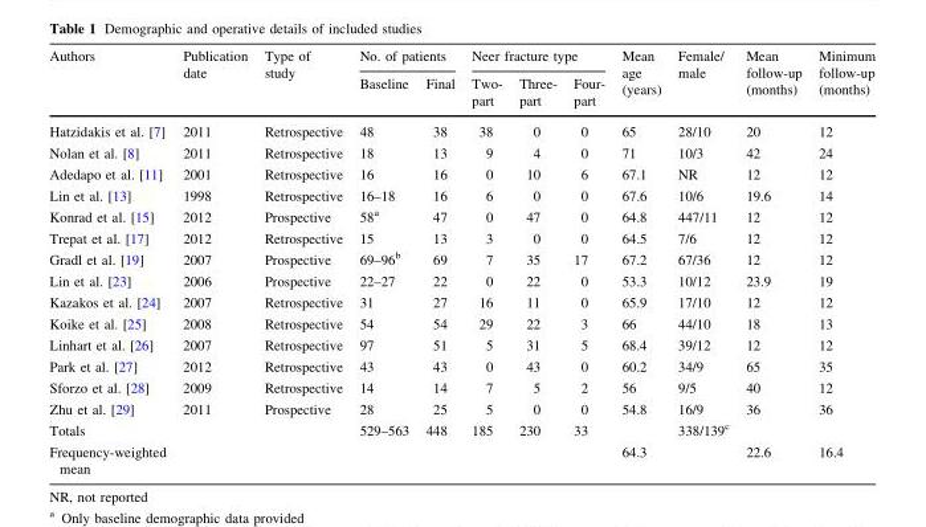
<table><thead><tr><td rowspan="2">Authors</td><td rowspan="2">Publication date</td><td rowspan="2">Type of study</td><td colspan="2">No. of patients</td><td colspan="3">Neer fracture type</td><td rowspan="2">Mean age (years)</td><td rowspan="2">Female/ male</td><td rowspan="2">Mean follow-up (months)</td><td rowspan="2">Minimum follow-up (months)</td></tr><tr><td>Baseline</td><td>Final</td><td>Two- part</td><td>Three- part</td><td>Four- part</td></tr></thead><tbody><tr><td>Hatzidakis et al. [7]</td><td>2011</td><td>Retrospective</td><td>48</td><td>38</td><td>38</td><td>0</td><td>0</td><td>65</td><td>28/10</td><td>20</td><td>12</td></tr><tr><td>Nolan et al. [8]</td><td>2011</td><td>Retrospective</td><td>18</td><td>13</td><td>9</td><td>4</td><td>0</td><td>71</td><td>10/3</td><td>42</td><td>24</td></tr><tr><td>Adedapo et al. [11]</td><td>2001</td><td>Retrospective</td><td>16</td><td>16</td><td>0</td><td>10</td><td>6</td><td>67.1</td><td>NR</td><td>12</td><td>12</td></tr><tr><td>Lin et al. [13]</td><td>1998</td><td>Retrospective</td><td>16–18</td><td>16</td><td>6</td><td>0</td><td>0</td><td>67.6</td><td>10/6</td><td>19.6</td><td>14</td></tr><tr><td>Konrad et al. [15]</td><td>2012</td><td>Prospective</td><td>58<sup>a</sup></td><td>47</td><td>0</td><td>47</td><td>0</td><td>64.8</td><td>447/11</td><td>12</td><td>12</td></tr><tr><td>Trepat et al. [17]</td><td>2012</td><td>Retrospective</td><td>15</td><td>13</td><td>3</td><td>0</td><td>0</td><td>64.5</td><td>7/6</td><td>12</td><td>12</td></tr><tr><td>Gradl et al. [19]</td><td>2007</td><td>Prospective</td><td>69–96<sup>b</sup></td><td>69</td><td>7</td><td>35</td><td>17</td><td>67.2</td><td>67/36</td><td>12</td><td>12</td></tr><tr><td>Lin et al. [23]</td><td>2006</td><td>Prospective</td><td>22–27</td><td>22</td><td>0</td><td>22</td><td>0</td><td>53.3</td><td>10/12</td><td>23.9</td><td>19</td></tr><tr><td>Kazakos et al. [24]</td><td>2007</td><td>Retrospective</td><td>31</td><td>27</td><td>16</td><td>11</td><td>0</td><td>65.9</td><td>17/10</td><td>12</td><td>12</td></tr><tr><td>Koike et al. [25]</td><td>2008</td><td>Retrospective</td><td>54</td><td>54</td><td>29</td><td>22</td><td>3</td><td>66</td><td>44/10</td><td>18</td><td>13</td></tr><tr><td>Linhart et al. [26]</td><td>2007</td><td>Retrospective</td><td>97</td><td>51</td><td>5</td><td>31</td><td>5</td><td>68.4</td><td>39/12</td><td>12</td><td>12</td></tr><tr><td>Park et al. [27]</td><td>2012</td><td>Retrospective</td><td>43</td><td>43</td><td>0</td><td>43</td><td>0</td><td>60.2</td><td>34/9</td><td>65</td><td>35</td></tr><tr><td>Sforzo et al. [28]</td><td>2009</td><td>Retrospective</td><td>14</td><td>14</td><td>7</td><td>5</td><td>2</td><td>56</td><td>9/5</td><td>40</td><td>12</td></tr><tr><td>Zhu et al. [29]</td><td>2011</td><td>Prospective</td><td>28</td><td>25</td><td>5</td><td>0</td><td>0</td><td>54.8</td><td>16/9</td><td>36</td><td>36</td></tr><tr><td>Totals</td><td></td><td></td><td>529–563</td><td>448</td><td>185</td><td>230</td><td>33</td><td></td><td>338/139<sup>c</sup></td><td></td><td></td></tr><tr><td>Frequency-weighted mean</td><td></td><td></td><td></td><td></td><td></td><td></td><td></td><td>64.3</td><td></td><td>22.6</td><td>16.4</td></tr></tbody></table>